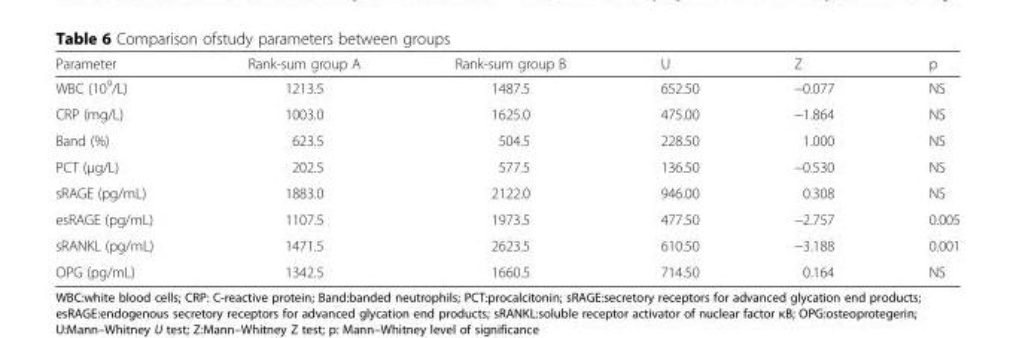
<table><thead><tr><td>Parameter</td><td>Rank-sum group A</td><td>Rank-sum group B</td><td>U</td><td>Z</td><td>p</td></tr></thead><tbody><tr><td>WBC (10<sup>9</sup>/L)</td><td>1213.5</td><td>1487.5</td><td>652.50</td><td>−0.077</td><td>NS</td></tr><tr><td>CRP (mg/L)</td><td>1003.0</td><td>1625.0</td><td>475.00</td><td>−1.864</td><td>NS</td></tr><tr><td>Band (%)</td><td>623.5</td><td>504.5</td><td>228.50</td><td>1.000</td><td>NS</td></tr><tr><td>PCT (μg/L)</td><td>202.5</td><td>577.5</td><td>136.50</td><td>−0.530</td><td>NS</td></tr><tr><td>sRAGE (pg/mL)</td><td>1883.0</td><td>2122.0</td><td>946.00</td><td>0.308</td><td>NS</td></tr><tr><td>esRAGE (pg/mL)</td><td>1107.5</td><td>1973.5</td><td>477.50</td><td>−2.757</td><td>0.005</td></tr><tr><td>sRANKL (pg/mL)</td><td>1471.5</td><td>2623.5</td><td>610.50</td><td>−3.188</td><td>0.001</td></tr><tr><td>OPG (pg/mL)</td><td>1342.5</td><td>1660.5</td><td>714.50</td><td>0.164</td><td>NS</td></tr></tbody></table>